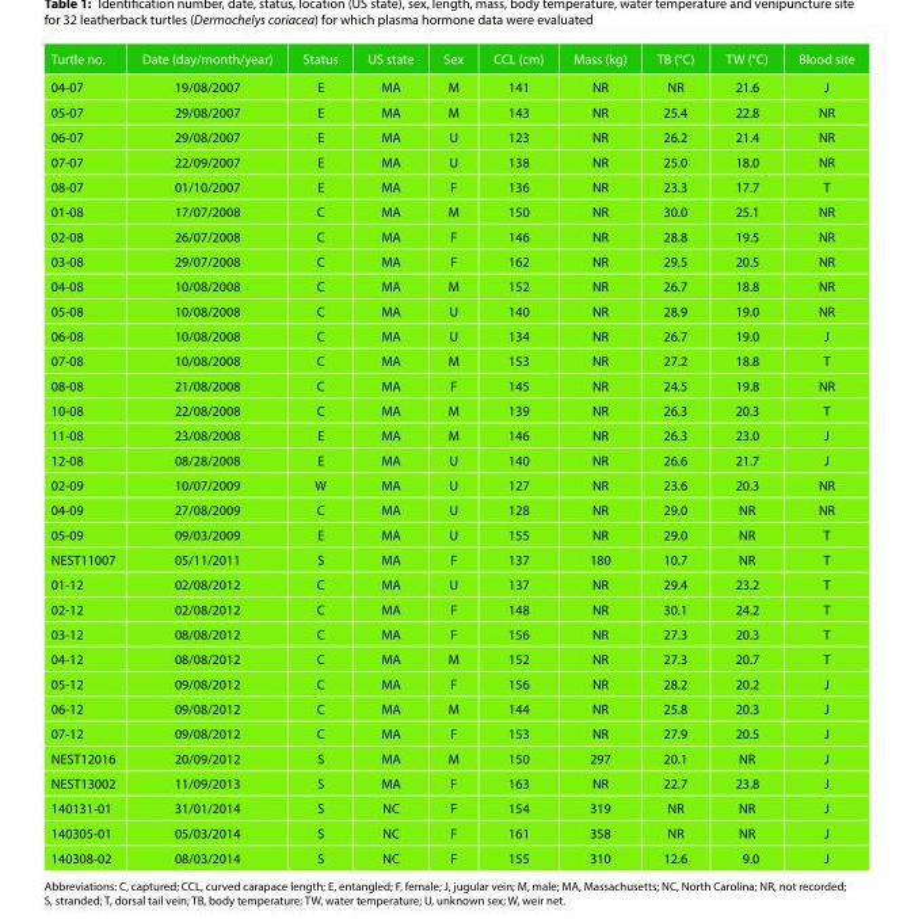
<table><thead><tr><td>Turtle no.</td><td>Date (day/month/year)</td><td>Status</td><td>US state</td><td>Sex</td><td>CCL (cm)</td><td>Mass (kg)</td><td>TB (°C)</td><td>TW (°C)</td><td>Blood site</td></tr></thead><tbody><tr><td>04-07</td><td>19/08/2007</td><td>E</td><td>MA</td><td>M</td><td>141</td><td>NR</td><td>NR</td><td>21.6</td><td>J</td></tr><tr><td>05-07</td><td>29/08/2007</td><td>E</td><td>MA</td><td>M</td><td>143</td><td>NR</td><td>25.4</td><td>22.8</td><td>NR</td></tr><tr><td>06-07</td><td>29/08/2007</td><td>E</td><td>MA</td><td>U</td><td>123</td><td>NR</td><td>26.2</td><td>21.4</td><td>NR</td></tr><tr><td>07-07</td><td>22/09/2007</td><td>E</td><td>MA</td><td>U</td><td>138</td><td>NR</td><td>25.0</td><td>18.0</td><td>NR</td></tr><tr><td>08-07</td><td>01/10/2007</td><td>E</td><td>MA</td><td>F</td><td>136</td><td>NR</td><td>23.3</td><td>17.7</td><td>T</td></tr><tr><td>01-08</td><td>17/07/2008</td><td>C</td><td>MA</td><td>M</td><td>150</td><td>NR</td><td>30.0</td><td>25.1</td><td>NR</td></tr><tr><td>02-08</td><td>26/07/2008</td><td>C</td><td>MA</td><td>F</td><td>146</td><td>NR</td><td>28.8</td><td>19.5</td><td>NR</td></tr><tr><td>03-08</td><td>29/07/2008</td><td>C</td><td>MA</td><td>F</td><td>162</td><td>NR</td><td>29.5</td><td>20.5</td><td>NR</td></tr><tr><td>04-08</td><td>10/08/2008</td><td>C</td><td>MA</td><td>M</td><td>152</td><td>NR</td><td>26.7</td><td>18.8</td><td>NR</td></tr><tr><td>05-08</td><td>10/08/2008</td><td>C</td><td>MA</td><td>U</td><td>140</td><td>NR</td><td>28.9</td><td>19.0</td><td>NR</td></tr><tr><td>06-08</td><td>10/08/2008</td><td>C</td><td>MA</td><td>U</td><td>134</td><td>NR</td><td>26.7</td><td>19.0</td><td>J</td></tr><tr><td>07-08</td><td>10/08/2008</td><td>C</td><td>MA</td><td>M</td><td>153</td><td>NR</td><td>27.2</td><td>18.8</td><td>T</td></tr><tr><td>08-08</td><td>21/08/2008</td><td>C</td><td>MA</td><td>F</td><td>145</td><td>NR</td><td>24.5</td><td>19.8</td><td>NR</td></tr><tr><td>10-08</td><td>22/08/2008</td><td>C</td><td>MA</td><td>M</td><td>139</td><td>NR</td><td>26.3</td><td>20.3</td><td>T</td></tr><tr><td>11-08</td><td>23/08/2008</td><td>E</td><td>MA</td><td>M</td><td>146</td><td>NR</td><td>26.3</td><td>23.0</td><td>J</td></tr><tr><td>12-08</td><td>08/28/2008</td><td>E</td><td>MA</td><td>U</td><td>140</td><td>NR</td><td>26.6</td><td>21.7</td><td>J</td></tr><tr><td>02-09</td><td>10/07/2009</td><td>W</td><td>MA</td><td>U</td><td>127</td><td>NR</td><td>23.6</td><td>20.3</td><td>NR</td></tr><tr><td>04-09</td><td>27/08/2009</td><td>C</td><td>MA</td><td>U</td><td>128</td><td>NR</td><td>29.0</td><td>NR</td><td>NR</td></tr><tr><td>05-09</td><td>09/03/2009</td><td>E</td><td>MA</td><td>U</td><td>155</td><td>NR</td><td>29.0</td><td>NR</td><td>T</td></tr><tr><td>NEST11007</td><td>05/11/2011</td><td>S</td><td>MA</td><td>F</td><td>137</td><td>180</td><td>10.7</td><td>NR</td><td>T</td></tr><tr><td>01-12</td><td>02/08/2012</td><td>C</td><td>MA</td><td>U</td><td>137</td><td>NR</td><td>29.4</td><td>23.2</td><td>T</td></tr><tr><td>02-12</td><td>02/08/2012</td><td>C</td><td>MA</td><td>F</td><td>148</td><td>NR</td><td>30.1</td><td>24.2</td><td>T</td></tr><tr><td>03-12</td><td>08/08/2012</td><td>C</td><td>MA</td><td>F</td><td>156</td><td>NR</td><td>27.3</td><td>20.3</td><td>T</td></tr><tr><td>04-12</td><td>08/08/2012</td><td>C</td><td>MA</td><td>M</td><td>152</td><td>NR</td><td>27.3</td><td>20.7</td><td>T</td></tr><tr><td>05-12</td><td>09/08/2012</td><td>C</td><td>MA</td><td>F</td><td>156</td><td>NR</td><td>28.2</td><td>20.2</td><td>J</td></tr><tr><td>06-12</td><td>09/08/2012</td><td>C</td><td>MA</td><td>M</td><td>144</td><td>NR</td><td>25.8</td><td>20.3</td><td>J</td></tr><tr><td>07-12</td><td>09/08/2012</td><td>C</td><td>MA</td><td>F</td><td>153</td><td>NR</td><td>27.9</td><td>20.5</td><td>J</td></tr><tr><td>NEST12016</td><td>20/09/2012</td><td>S</td><td>MA</td><td>M</td><td>150</td><td>297</td><td>20.1</td><td>NR</td><td>J</td></tr><tr><td>NEST13002</td><td>11/09/2013</td><td>S</td><td>MA</td><td>F</td><td>163</td><td>NR</td><td>22.7</td><td>23.8</td><td>J</td></tr><tr><td>140131-01</td><td>31/01/2014</td><td>S</td><td>NC</td><td>F</td><td>154</td><td>319</td><td>NR</td><td>NR</td><td>J</td></tr><tr><td>140305-01</td><td>05/03/2014</td><td>S</td><td>NC</td><td>F</td><td>161</td><td>358</td><td>NR</td><td>NR</td><td>J</td></tr><tr><td>140308-02</td><td>08/03/2014</td><td>S</td><td>NC</td><td>F</td><td>155</td><td>310</td><td>12.6</td><td>9.0</td><td>J</td></tr></tbody></table>